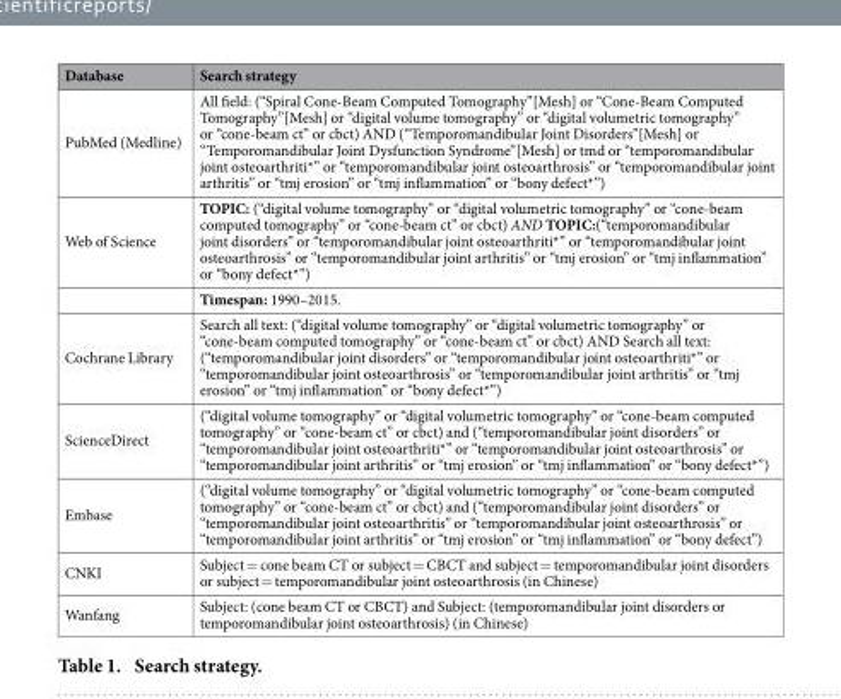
<table><thead><tr><td>Database</td><td>Search strategy</td></tr></thead><tbody><tr><td>PubMed (Medline)</td><td>All field: (“Spiral Cone-Beam Computed Tomography”[Mesh] or “Cone-Beam Computed Tomography”[Mesh] or “digital volume tomography” or “digital volumetric tomography” or “cone-beam ct” or cbct) AND (“Temporomandibular Joint Disorders”[Mesh] or “Temporomandibular Joint Dysfunction Syndrome”[Mesh] or tmd or “temporomandibular joint osteoarthriti*” or “temporomandibular joint osteoarthrosis” or “temporomandibular joint arthritis” or “tmj erosion” or “tmj inflammation” or “bony defect*”)</td></tr><tr><td rowspan="2">Web of Science</td><td>TOPIC: (“digital volume tomography” or “digital volumetric tomography” or “cone-beam computed tomography” or “cone-beam ct” or cbct) AND TOPIC:(“temporomandibular joint disorders” or “temporomandibular joint osteoarthriti*” or “temporomandibular joint osteoarthrosis” or “temporomandibular joint arthritis” or “tmj erosion” or “tmj inflammation” or “bony defect*”)</td></tr><tr><td>Timespan: 1990–2015.</td></tr><tr><td>Cochrane Library</td><td>Search all text: (“digital volume tomography” or “digital volumetric tomography” or “cone-beam computed tomography” or “cone-beam ct” or cbct) AND Search all text: (“temporomandibular joint disorders” or “temporomandibular joint osteoarthriti*” or “temporomandibular joint osteoarthrosis” or “temporomandibular joint arthritis” or “tmj erosion” or “tmj inflammation” or “bony defect*”)</td></tr><tr><td>ScienceDirect</td><td>(“digital volume tomography” or “digital volumetric tomography” or “cone-beam computed tomography” or “cone-beam ct” or cbct) and (“temporomandibular joint disorders” or “temporomandibular joint osteoarthriti*” or “temporomandibular joint osteoarthrosis” or “temporomandibular joint arthritis” or “tmj erosion” or “tmj inflammation” or “bony defect*”)</td></tr><tr><td>Embase</td><td>(“digital volume tomography” or “digital volumetric tomography” or “cone-beam computed tomography” or “cone-beam ct” or cbct) and (“temporomandibular joint disorders” or “temporomandibular joint osteoarthritis” or “temporomandibular joint osteoarthrosis” or “temporomandibular joint arthritis” or “tmj erosion” or “tmj inflammation” or “bony defect”)</td></tr><tr><td>CNKI</td><td>Subject = cone beam CT or subject = CBCT and subject = temporomandibular joint disorders or subject = temporomandibular joint osteoarthrosis (in Chinese)</td></tr><tr><td>Wanfang</td><td>Subject: (cone beam CT or CBCT) and Subject: (temporomandibular joint disorders or temporomandibular joint osteoarthrosis) (in Chinese)</td></tr></tbody></table>